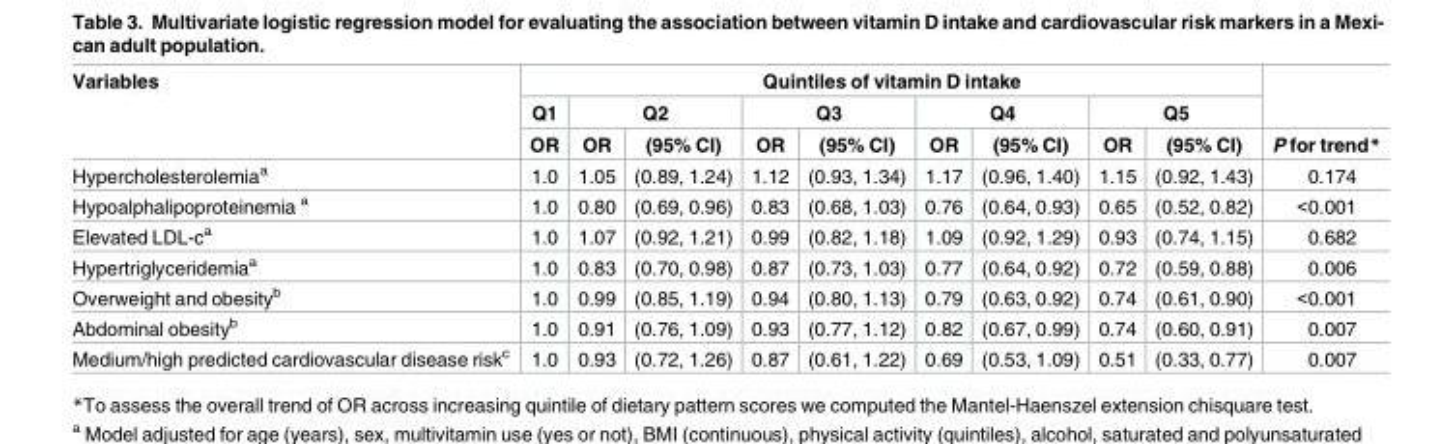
<table><thead><tr><td rowspan="3">Variables</td><td colspan="9">Quintiles of vitamin D intake</td><td rowspan="3">P for trend*</td></tr><tr><td rowspan="2">Q1 OR</td><td colspan="2">Q2</td><td colspan="2">Q3</td><td colspan="2">Q4</td><td colspan="2">Q5</td></tr><tr><td>OR</td><td>(95% CI)</td><td>OR</td><td>(95% CI)</td><td>OR</td><td>(95% CI)</td><td>OR</td><td>(95% CI)</td></tr></thead><tbody><tr><td>Hypercholesterolemia<sup>a</sup></td><td>1.0</td><td>1.05</td><td>(0.89, 1.24)</td><td>1.12</td><td>(0.93, 1.34)</td><td>1.17</td><td>(0.96, 1.40)</td><td>1.15</td><td>(0.92, 1.43)</td><td>0.174</td></tr><tr><td>Hypoalphalipoproteinemia <sup>a</sup></td><td>1.0</td><td>0.80</td><td>(0.69, 0.96)</td><td>0.83</td><td>(0.68, 1.03)</td><td>0.76</td><td>(0.64, 0.93)</td><td>0.65</td><td>(0.52, 0.82)</td><td>&lt;0.001</td></tr><tr><td>Elevated LDL-c<sup>a</sup></td><td>1.0</td><td>1.07</td><td>(0.92, 1.21)</td><td>0.99</td><td>(0.82, 1.18)</td><td>1.09</td><td>(0.92, 1.29)</td><td>0.93</td><td>(0.74, 1.15)</td><td>0.682</td></tr><tr><td>Hypertriglyceridemia<sup>a</sup></td><td>1.0</td><td>0.83</td><td>(0.70, 0.98)</td><td>0.87</td><td>(0.73, 1.03)</td><td>0.77</td><td>(0.64, 0.92)</td><td>0.72</td><td>(0.59, 0.88)</td><td>0.006</td></tr><tr><td>Overweight and obesity<sup>b</sup></td><td>1.0</td><td>0.99</td><td>(0.85, 1.19)</td><td>0.94</td><td>(0.80, 1.13)</td><td>0.79</td><td>(0.63, 0.92)</td><td>0.74</td><td>(0.61, 0.90)</td><td>&lt;0.001</td></tr><tr><td>Abdominal obesity<sup>b</sup></td><td>1.0</td><td>0.91</td><td>(0.76, 1.09)</td><td>0.93</td><td>(0.77, 1.12)</td><td>0.82</td><td>(0.67, 0.99)</td><td>0.74</td><td>(0.60, 0.91)</td><td>0.007</td></tr><tr><td>Medium/high predicted cardiovascular disease risk<sup>c</sup></td><td>1.0</td><td>0.93</td><td>(0.72, 1.26)</td><td>0.87</td><td>(0.61, 1.22)</td><td>0.69</td><td>(0.53, 1.09)</td><td>0.51</td><td>(0.33, 0.77)</td><td>0.007</td></tr></tbody></table>